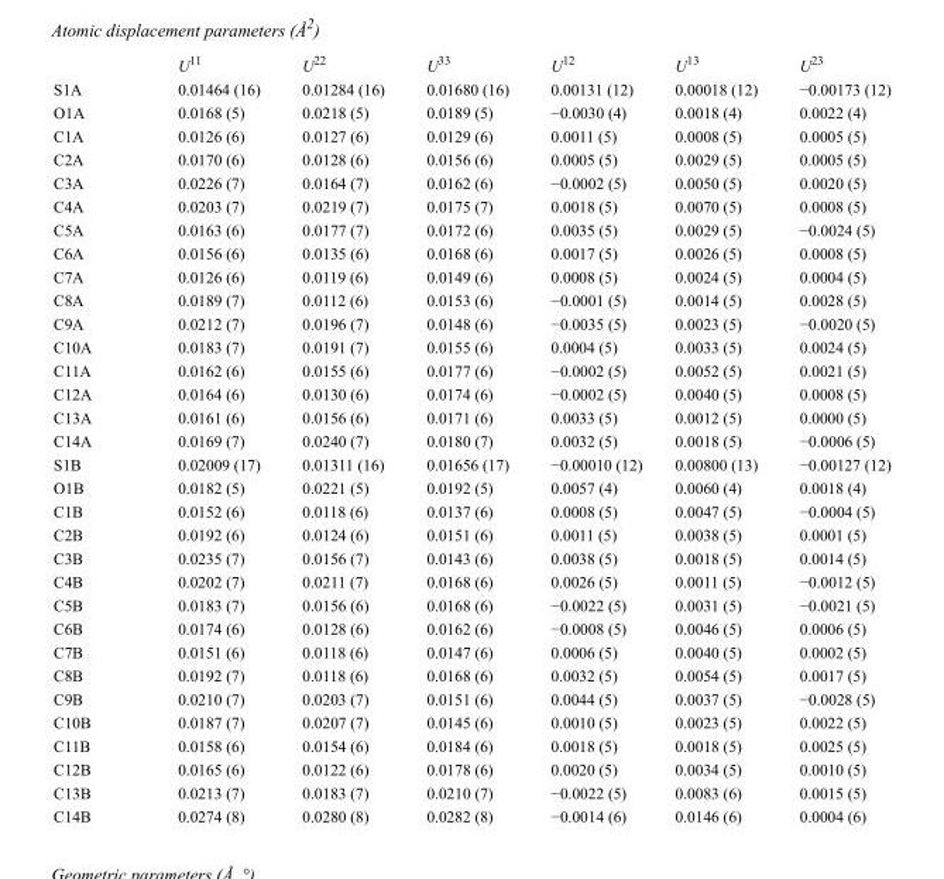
<table><thead><tr><td></td><td>U<sup>11</sup></td><td>U<sup>22</sup></td><td>U<sup>33</sup></td><td>U<sup>12</sup></td><td>U<sup>13</sup></td><td>U<sup>23</sup></td></tr></thead><tbody><tr><td>S1A</td><td>0.01464 (16)</td><td>0.01284 (16)</td><td>0.01680 (16)</td><td>0.00131 (12)</td><td>0.00018 (12)</td><td>−0.00173 (12)</td></tr><tr><td>O1A</td><td>0.0168 (5)</td><td>0.0218 (5)</td><td>0.0189 (5)</td><td>−0.0030 (4)</td><td>0.0018 (4)</td><td>0.0022 (4)</td></tr><tr><td>C1A</td><td>0.0126 (6)</td><td>0.0127 (6)</td><td>0.0129 (6)</td><td>0.0011 (5)</td><td>0.0008 (5)</td><td>0.0005 (5)</td></tr><tr><td>C2A</td><td>0.0170 (6)</td><td>0.0128 (6)</td><td>0.0156 (6)</td><td>0.0005 (5)</td><td>0.0029 (5)</td><td>0.0005 (5)</td></tr><tr><td>C3A</td><td>0.0226 (7)</td><td>0.0164 (7)</td><td>0.0162 (6)</td><td>−0.0002 (5)</td><td>0.0050 (5)</td><td>0.0020 (5)</td></tr><tr><td>C4A</td><td>0.0203 (7)</td><td>0.0219 (7)</td><td>0.0175 (7)</td><td>0.0018 (5)</td><td>0.0070 (5)</td><td>0.0008 (5)</td></tr><tr><td>C5A</td><td>0.0163 (6)</td><td>0.0177 (7)</td><td>0.0172 (6)</td><td>0.0035 (5)</td><td>0.0029 (5)</td><td>−0.0024 (5)</td></tr><tr><td>C6A</td><td>0.0156 (6)</td><td>0.0135 (6)</td><td>0.0168 (6)</td><td>0.0017 (5)</td><td>0.0026 (5)</td><td>0.0008 (5)</td></tr><tr><td>C7A</td><td>0.0126 (6)</td><td>0.0119 (6)</td><td>0.0149 (6)</td><td>0.0008 (5)</td><td>0.0024 (5)</td><td>0.0004 (5)</td></tr><tr><td>C8A</td><td>0.0189 (7)</td><td>0.0112 (6)</td><td>0.0153 (6)</td><td>−0.0001 (5)</td><td>0.0014 (5)</td><td>0.0028 (5)</td></tr><tr><td>C9A</td><td>0.0212 (7)</td><td>0.0196 (7)</td><td>0.0148 (6)</td><td>−0.0035 (5)</td><td>0.0023 (5)</td><td>−0.0020 (5)</td></tr><tr><td>C10A</td><td>0.0183 (7)</td><td>0.0191 (7)</td><td>0.0155 (6)</td><td>0.0004 (5)</td><td>0.0033 (5)</td><td>0.0024 (5)</td></tr><tr><td>C11A</td><td>0.0162 (6)</td><td>0.0155 (6)</td><td>0.0177 (6)</td><td>−0.0002 (5)</td><td>0.0052 (5)</td><td>0.0021 (5)</td></tr><tr><td>C12A</td><td>0.0164 (6)</td><td>0.0130 (6)</td><td>0.0174 (6)</td><td>−0.0002 (5)</td><td>0.0040 (5)</td><td>0.0008 (5)</td></tr><tr><td>C13A</td><td>0.0161 (6)</td><td>0.0156 (6)</td><td>0.0171 (6)</td><td>0.0033 (5)</td><td>0.0012 (5)</td><td>0.0000 (5)</td></tr><tr><td>C14A</td><td>0.0169 (7)</td><td>0.0240 (7)</td><td>0.0180 (7)</td><td>0.0032 (5)</td><td>0.0018 (5)</td><td>−0.0006 (5)</td></tr><tr><td>S1B</td><td>0.02009 (17)</td><td>0.01311 (16)</td><td>0.01656 (17)</td><td>−0.00010 (12)</td><td>0.00800 (13)</td><td>−0.00127 (12)</td></tr><tr><td>O1B</td><td>0.0182 (5)</td><td>0.0221 (5)</td><td>0.0192 (5)</td><td>0.0057 (4)</td><td>0.0060 (4)</td><td>0.0018 (4)</td></tr><tr><td>C1B</td><td>0.0152 (6)</td><td>0.0118 (6)</td><td>0.0137 (6)</td><td>0.0008 (5)</td><td>0.0047 (5)</td><td>−0.0004 (5)</td></tr><tr><td>C2B</td><td>0.0192 (6)</td><td>0.0124 (6)</td><td>0.0151 (6)</td><td>0.0011 (5)</td><td>0.0038 (5)</td><td>0.0001 (5)</td></tr><tr><td>C3B</td><td>0.0235 (7)</td><td>0.0156 (7)</td><td>0.0143 (6)</td><td>0.0038 (5)</td><td>0.0018 (5)</td><td>0.0014 (5)</td></tr><tr><td>C4B</td><td>0.0202 (7)</td><td>0.0211 (7)</td><td>0.0168 (6)</td><td>0.0026 (5)</td><td>0.0011 (5)</td><td>−0.0012 (5)</td></tr><tr><td>C5B</td><td>0.0183 (7)</td><td>0.0156 (6)</td><td>0.0168 (6)</td><td>−0.0022 (5)</td><td>0.0031 (5)</td><td>−0.0021 (5)</td></tr><tr><td>C6B</td><td>0.0174 (6)</td><td>0.0128 (6)</td><td>0.0162 (6)</td><td>−0.0008 (5)</td><td>0.0046 (5)</td><td>0.0006 (5)</td></tr><tr><td>C7B</td><td>0.0151 (6)</td><td>0.0118 (6)</td><td>0.0147 (6)</td><td>0.0006 (5)</td><td>0.0040 (5)</td><td>0.0002 (5)</td></tr><tr><td>C8B</td><td>0.0192 (7)</td><td>0.0118 (6)</td><td>0.0168 (6)</td><td>0.0032 (5)</td><td>0.0054 (5)</td><td>0.0017 (5)</td></tr><tr><td>C9B</td><td>0.0210 (7)</td><td>0.0203 (7)</td><td>0.0151 (6)</td><td>0.0044 (5)</td><td>0.0037 (5)</td><td>−0.0028 (5)</td></tr><tr><td>C10B</td><td>0.0187 (7)</td><td>0.0207 (7)</td><td>0.0145 (6)</td><td>0.0010 (5)</td><td>0.0023 (5)</td><td>0.0022 (5)</td></tr><tr><td>C11B</td><td>0.0158 (6)</td><td>0.0154 (6)</td><td>0.0184 (6)</td><td>0.0018 (5)</td><td>0.0018 (5)</td><td>0.0025 (5)</td></tr><tr><td>C12B</td><td>0.0165 (6)</td><td>0.0122 (6)</td><td>0.0178 (6)</td><td>0.0020 (5)</td><td>0.0034 (5)</td><td>0.0010 (5)</td></tr><tr><td>C13B</td><td>0.0213 (7)</td><td>0.0183 (7)</td><td>0.0210 (7)</td><td>−0.0022 (5)</td><td>0.0083 (6)</td><td>0.0015 (5)</td></tr><tr><td>C14B</td><td>0.0274 (8)</td><td>0.0280 (8)</td><td>0.0282 (8)</td><td>−0.0014 (6)</td><td>0.0146 (6)</td><td>0.0004 (6)</td></tr></tbody></table>